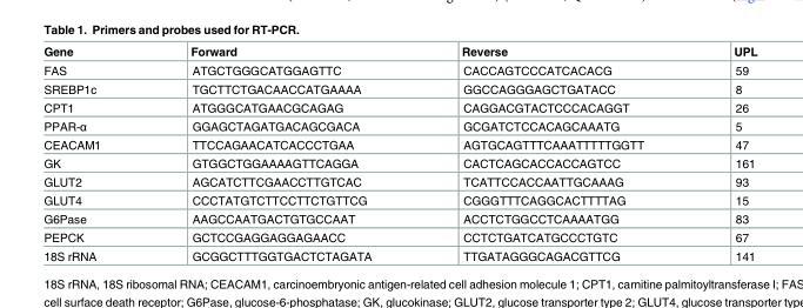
<table><thead><tr><td>Gene</td><td>Forward</td><td>Reverse</td><td>UPL</td></tr></thead><tbody><tr><td>FAS</td><td>ATGCTGGGCATGGAGTTC</td><td>CACCAGTCCCATCACACG</td><td>59</td></tr><tr><td>SREBP1c</td><td>TGCTTCTGACAACCATGAAAA</td><td>GGCCAGGGAGCTGATACC</td><td>8</td></tr><tr><td>CPT1</td><td>ATGGGCATGAACGCAGAG</td><td>CAGGACGTACTCCCACAGGT</td><td>26</td></tr><tr><td>PPAR-α</td><td>GGAGCTAGATGACAGCGACA</td><td>GCGATCTCCACAGCAAATG</td><td>5</td></tr><tr><td>CEACAM1</td><td>TTCCAGAACATCACCCTGAA</td><td>AGTGCAGTTTCAAATTTTTGGTT</td><td>47</td></tr><tr><td>GK</td><td>GTGGCTGGAAAAGTTCAGGA</td><td>CACTCAGCACCACCAGTCC</td><td>161</td></tr><tr><td>GLUT2</td><td>AGCATCTTCGAACCTTGTCAC</td><td>TCATTCCACCAATTGCAAAG</td><td>93</td></tr><tr><td>GLUT4</td><td>CCCTATGTCTTCCTTCTGTTCG</td><td>CGGGTTTCAGGCACTTTTAG</td><td>15</td></tr><tr><td>G6Pase</td><td>AAGCCAATGACTGTGCCAAT</td><td>ACCTCTGGCCTCAAAATGG</td><td>83</td></tr><tr><td>PEPCK</td><td>GCTCCGAGGAGGAGAACC</td><td>CCTCTGATCATGCCCTGTC</td><td>67</td></tr><tr><td>18S rRNA</td><td>GCGGCTTTGGTGACTCTAGATA</td><td>TTGATAGGGCAGACGTTCG</td><td>141</td></tr></tbody></table>